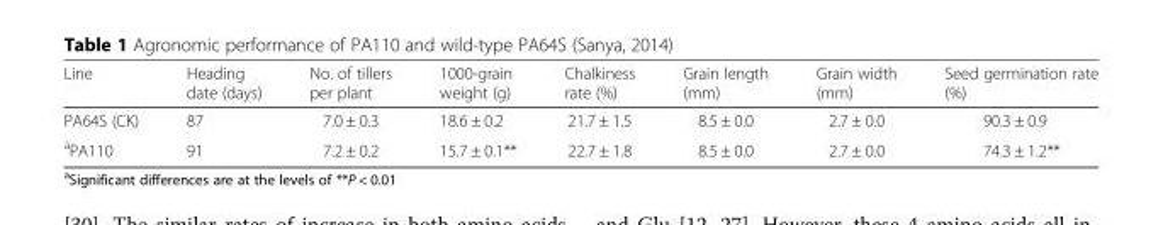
<table><thead><tr><td>Line</td><td>Heading date (days)</td><td>No. of tillers per plant</td><td>1000-grain weight (g)</td><td>Chalkiness rate (%)</td><td>Grain length (mm)</td><td>Grain width (mm)</td><td>Seed germination rate (%)</td></tr></thead><tbody><tr><td>PA64S (CK)</td><td>87</td><td>7.0 ± 0.3</td><td>18.6 ± 0.2</td><td>21.7 ± 1.5</td><td>8.5 ± 0.0</td><td>2.7 ± 0.0</td><td>90.3 ± 0.9</td></tr><tr><td><sup>a</sup>PA110</td><td>91</td><td>7.2 ± 0.2</td><td>15.7 ± 0.1**</td><td>22.7 ± 1.8</td><td>8.5 ± 0.0</td><td>2.7 ± 0.0</td><td>74.3 ± 1.2**</td></tr></tbody></table>